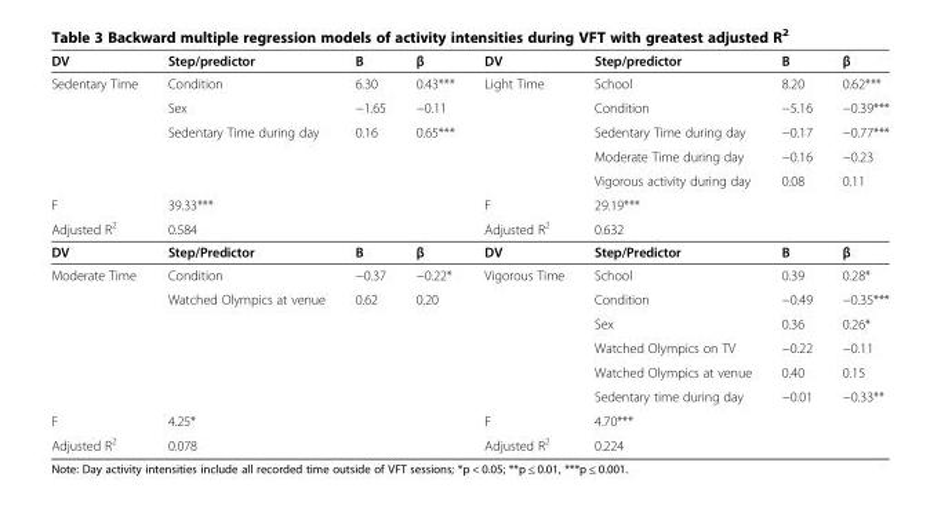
<table><thead><tr><td>DV</td><td>Step/predictor</td><td>B</td><td>β</td><td>DV</td><td>Step/predictor</td><td>B</td><td>β</td></tr></thead><tbody><tr><td rowspan="5">Sedentary Time</td><td>Condition</td><td>6.30</td><td>0.43***</td><td>Light Time</td><td>School</td><td>8.20</td><td>0.62***</td></tr><tr><td>Sex</td><td>−1.65</td><td>−0.11</td><td></td><td>Condition</td><td>−5.16</td><td>−0.39***</td></tr><tr><td>Sedentary Time during day</td><td>0.16</td><td>0.65***</td><td></td><td>Sedentary Time during day</td><td>−0.17</td><td>−0.77***</td></tr><tr><td></td><td></td><td></td><td></td><td>Moderate Time during day</td><td>−0.16</td><td>−0.23</td></tr><tr><td></td><td></td><td></td><td></td><td>Vigorous activity during day</td><td>0.08</td><td>0.11</td></tr><tr><td>F</td><td colspan="3">39.33***</td><td>F</td><td colspan="3">29.19***</td></tr><tr><td>Adjusted R<sup>2</sup></td><td colspan="3">0.584</td><td>Adjusted R<sup>2</sup></td><td colspan="3">0.632</td></tr><tr><td>DV</td><td>Step/Predictor</td><td>B</td><td>β</td><td>DV</td><td>Step/Predictor</td><td>B</td><td>β</td></tr><tr><td rowspan="6">Moderate Time</td><td>Condition</td><td>−0.37</td><td>−0.22*</td><td>Vigorous Time</td><td>School</td><td>0.39</td><td>0.28*</td></tr><tr><td>Watched Olympics at venue</td><td>0.62</td><td>0.20</td><td></td><td>Condition</td><td>−0.49</td><td>−0.35***</td></tr><tr><td></td><td></td><td></td><td></td><td>Sex</td><td>0.36</td><td>0.26*</td></tr><tr><td></td><td></td><td></td><td></td><td>Watched Olympics on TV</td><td>−0.22</td><td>−0.11</td></tr><tr><td></td><td></td><td></td><td></td><td>Watched Olympics at venue</td><td>0.40</td><td>0.15</td></tr><tr><td></td><td></td><td></td><td></td><td>Sedentary time during day</td><td>−0.01</td><td>−0.33**</td></tr><tr><td>F</td><td colspan="3">4.25*</td><td>F</td><td colspan="3">4.70***</td></tr><tr><td>Adjusted R<sup>2</sup></td><td colspan="3">0.078</td><td>Adjusted R<sup>2</sup></td><td colspan="3">0.224</td></tr></tbody></table>